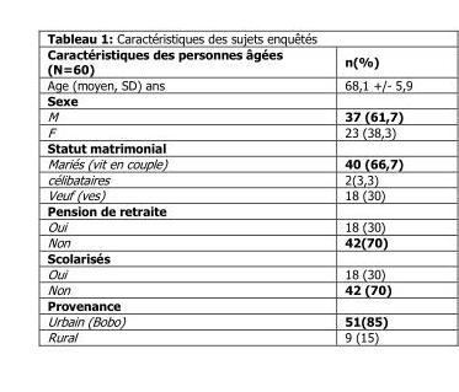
<table><thead><tr><td>Caractéristiques des personnes âgées (N=60)</td><td>n(%)</td></tr></thead><tbody><tr><td>Age (moyen, SD) ans</td><td>68,1 +/- 5,9</td></tr><tr><td colspan="2">Sexe</td></tr><tr><td>M</td><td>37 (61,7)</td></tr><tr><td>F</td><td>23 (38,3)</td></tr><tr><td colspan="2">Statut matrimonial</td></tr><tr><td>Mariés (vit en couple)</td><td>40 (66,7)</td></tr><tr><td>célibataires</td><td>2(3,3)</td></tr><tr><td>Veuf (ves)</td><td>18 (30)</td></tr><tr><td colspan="2">Pension de retraite</td></tr><tr><td>Oui</td><td>18 (30)</td></tr><tr><td>Non</td><td>42(70)</td></tr><tr><td colspan="2">Scolarisés</td></tr><tr><td>Oui</td><td>18 (30)</td></tr><tr><td>Non</td><td>42 (70)</td></tr><tr><td colspan="2">Provenance</td></tr><tr><td>Urbain (Bobo)</td><td>51(85)</td></tr><tr><td>Rural</td><td>9 (15)</td></tr></tbody></table>